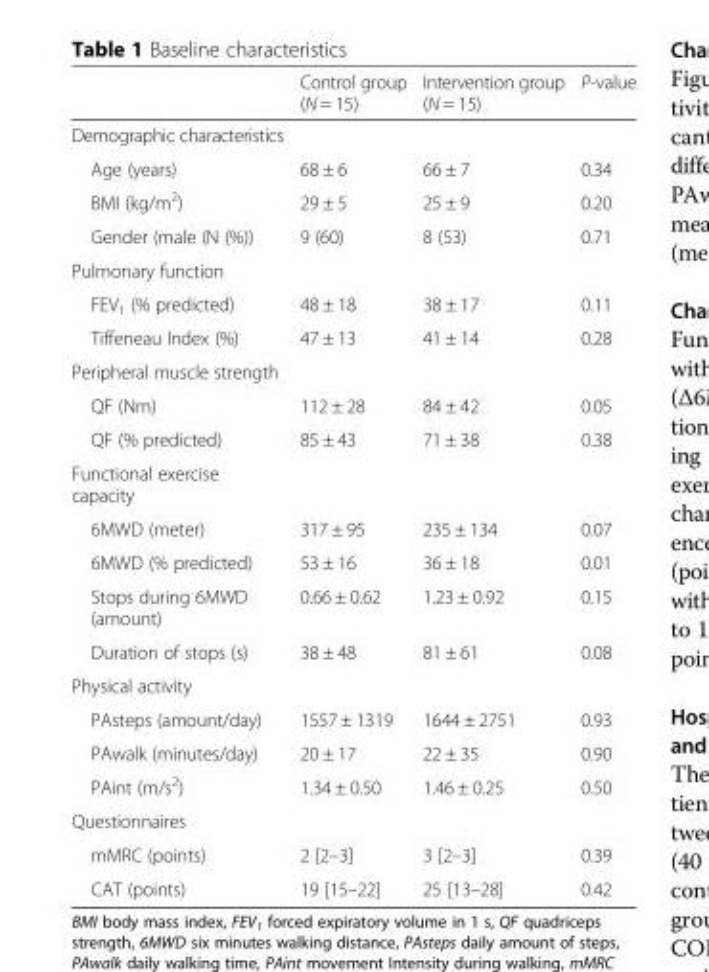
<table><thead><tr><td></td><td>Control group (N = 15)</td><td>Intervention group (N = 15)</td><td>P-value</td></tr></thead><tbody><tr><td colspan="4">Demographic characteristics</td></tr><tr><td>Age (years)</td><td>68 ± 6</td><td>66 ± 7</td><td>0.34</td></tr><tr><td>BMI (kg/m<sup>2</sup>)</td><td>29 ± 5</td><td>25 ± 9</td><td>0.20</td></tr><tr><td>Gender (male (N (%))</td><td>9 (60)</td><td>8 (53)</td><td>0.71</td></tr><tr><td colspan="4">Pulmonary function</td></tr><tr><td>FEV<sub>1</sub> (% predicted)</td><td>48 ± 18</td><td>38 ± 17</td><td>0.11</td></tr><tr><td>Tiffeneau Index (%)</td><td>47 ± 13</td><td>41 ± 14</td><td>0.28</td></tr><tr><td colspan="4">Peripheral muscle strength</td></tr><tr><td>QF (Nm)</td><td>112 ± 28</td><td>84 ± 42</td><td>0.05</td></tr><tr><td>QF (% predicted)</td><td>85 ± 43</td><td>71 ± 38</td><td>0.38</td></tr><tr><td colspan="4">Functional exercise capacity</td></tr><tr><td>6MWD (meter)</td><td>317 ± 95</td><td>235 ± 134</td><td>0.07</td></tr><tr><td>6MWD (% predicted)</td><td>53 ± 16</td><td>36 ± 18</td><td>0.01</td></tr><tr><td>Stops during 6MWD (amount)</td><td>0.66 ± 0.62</td><td>1.23 ± 0.92</td><td>0.15</td></tr><tr><td>Duration of stops (s)</td><td>38 ± 48</td><td>81 ± 61</td><td>0.08</td></tr><tr><td colspan="4">Physical activity</td></tr><tr><td>PAsteps (amount/day)</td><td>1557 ± 1319</td><td>1644 ± 2751</td><td>0.93</td></tr><tr><td>PAwalk (minutes/day)</td><td>20 ± 17</td><td>22 ± 35</td><td>0.90</td></tr><tr><td>PAint (m/s<sup>2</sup>)</td><td>1.34 ± 0.50</td><td>1.46 ± 0.25</td><td>0.50</td></tr><tr><td colspan="4">Questionnaires</td></tr><tr><td>mMRC (points)</td><td>2 [2–3]</td><td>3 [2–3]</td><td>0.39</td></tr><tr><td>CAT (points)</td><td>19 [15–22]</td><td>25 [13–28]</td><td>0.42</td></tr></tbody></table>